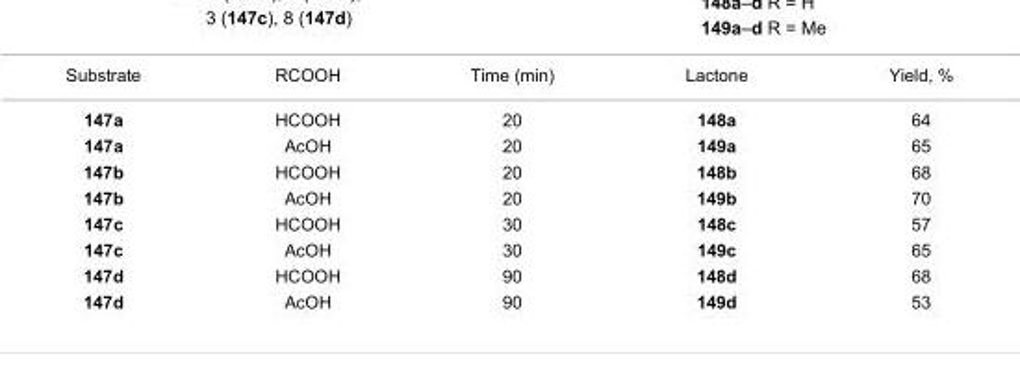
<table><tbody><tr><td>Substrate</td><td>RCOOH</td><td>Time (min)</td><td>Lactone</td><td>Yield, %</td></tr><tr><td>147a</td><td>HCOOH</td><td>20</td><td>148a</td><td>64</td></tr><tr><td>147a</td><td>AcOH</td><td>20</td><td>149a</td><td>65</td></tr><tr><td>147b</td><td>HCOOH</td><td>20</td><td>148b</td><td>68</td></tr><tr><td>147b</td><td>AcOH</td><td>20</td><td>149b</td><td>70</td></tr><tr><td>147c</td><td>HCOOH</td><td>30</td><td>148c</td><td>57</td></tr><tr><td>147c</td><td>AcOH</td><td>30</td><td>149c</td><td>65</td></tr><tr><td>147d</td><td>HCOOH</td><td>90</td><td>148d</td><td>68</td></tr><tr><td>147d</td><td>AcOH</td><td>90</td><td>149d</td><td>53</td></tr></tbody></table>